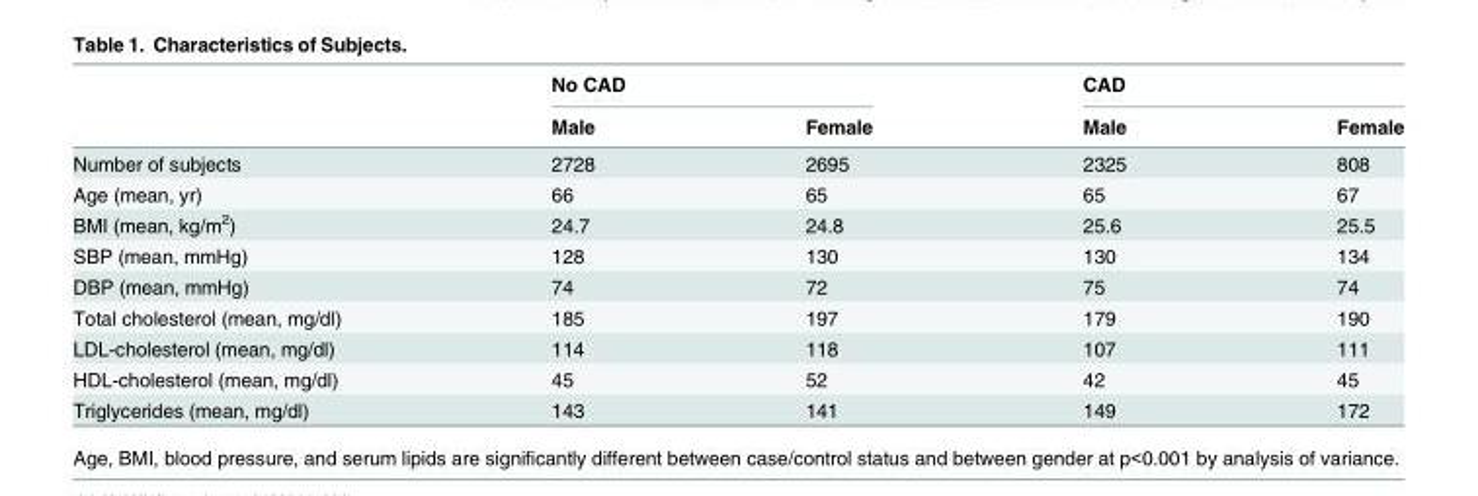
<table><thead><tr><td rowspan="2"></td><td colspan="2">No CAD</td><td colspan="2">CAD</td></tr><tr><td>Male</td><td>Female</td><td>Male</td><td>Female</td></tr></thead><tbody><tr><td>Number of subjects</td><td>2728</td><td>2695</td><td>2325</td><td>808</td></tr><tr><td>Age (mean, yr)</td><td>66</td><td>65</td><td>65</td><td>67</td></tr><tr><td>BMI (mean, kg/m<sup>2</sup>)</td><td>24.7</td><td>24.8</td><td>25.6</td><td>25.5</td></tr><tr><td>SBP (mean, mmHg)</td><td>128</td><td>130</td><td>130</td><td>134</td></tr><tr><td>DBP (mean, mmHg)</td><td>74</td><td>72</td><td>75</td><td>74</td></tr><tr><td>Total cholesterol (mean, mg/dl)</td><td>185</td><td>197</td><td>179</td><td>190</td></tr><tr><td>LDL-cholesterol (mean, mg/dl)</td><td>114</td><td>118</td><td>107</td><td>111</td></tr><tr><td>HDL-cholesterol (mean, mg/dl)</td><td>45</td><td>52</td><td>42</td><td>45</td></tr><tr><td>Triglycerides (mean, mg/dl)</td><td>143</td><td>141</td><td>149</td><td>172</td></tr></tbody></table>